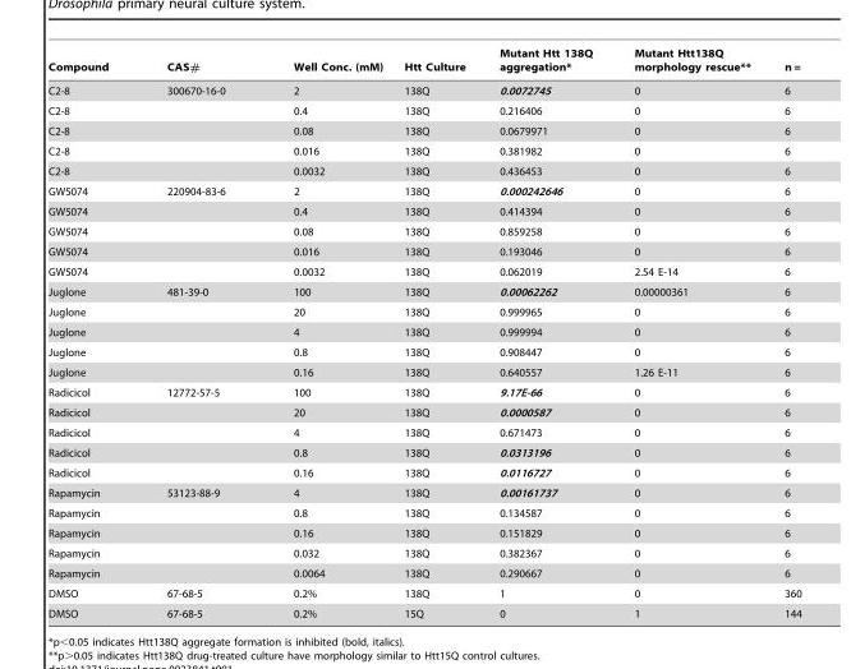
<table><thead><tr><td>Compound</td><td>CAS#</td><td>Well Conc. (mM)</td><td>Htt Culture</td><td>Mutant Htt 138Q aggregation*</td><td>Mutant Htt138Q morphology rescue**</td><td>n =</td></tr></thead><tbody><tr><td>C2-8</td><td>300670-16-0</td><td>2</td><td>138Q</td><td>0.0072745</td><td>0</td><td>6</td></tr><tr><td>C2-8</td><td></td><td>0.4</td><td>138Q</td><td>0.216406</td><td>0</td><td>6</td></tr><tr><td>C2-8</td><td></td><td>0.08</td><td>138Q</td><td>0.0679971</td><td>0</td><td>6</td></tr><tr><td>C2-8</td><td></td><td>0.016</td><td>138Q</td><td>0.381982</td><td>0</td><td>6</td></tr><tr><td>C2-8</td><td></td><td>0.0032</td><td>138Q</td><td>0.436453</td><td>0</td><td>6</td></tr><tr><td>GW5074</td><td>220904-83-6</td><td>2</td><td>138Q</td><td>0.000242646</td><td>0</td><td>6</td></tr><tr><td>GW5074</td><td></td><td>0.4</td><td>138Q</td><td>0.414394</td><td>0</td><td>6</td></tr><tr><td>GW5074</td><td></td><td>0.08</td><td>138Q</td><td>0.859258</td><td>0</td><td>6</td></tr><tr><td>GW5074</td><td></td><td>0.016</td><td>138Q</td><td>0.193046</td><td>0</td><td>6</td></tr><tr><td>GW5074</td><td></td><td>0.0032</td><td>138Q</td><td>0.062019</td><td>2.54 E-14</td><td>6</td></tr><tr><td>Juglone</td><td>481-39-0</td><td>100</td><td>138Q</td><td>0.00062262</td><td>0.00000361</td><td>6</td></tr><tr><td>Juglone</td><td></td><td>20</td><td>138Q</td><td>0.999965</td><td>0</td><td>6</td></tr><tr><td>Juglone</td><td></td><td>4</td><td>138Q</td><td>0.999994</td><td>0</td><td>6</td></tr><tr><td>Juglone</td><td></td><td>0.8</td><td>138Q</td><td>0.908447</td><td>0</td><td>6</td></tr><tr><td>Juglone</td><td></td><td>0.16</td><td>138Q</td><td>0.640557</td><td>1.26 E-11</td><td>6</td></tr><tr><td>Radicicol</td><td>12772-57-5</td><td>100</td><td>138Q</td><td>9.17E-66</td><td>0</td><td>6</td></tr><tr><td>Radicicol</td><td></td><td>20</td><td>138Q</td><td>0.0000587</td><td>0</td><td>6</td></tr><tr><td>Radicicol</td><td></td><td>4</td><td>138Q</td><td>0.671473</td><td>0</td><td>6</td></tr><tr><td>Radicicol</td><td></td><td>0.8</td><td>138Q</td><td>0.0313196</td><td>0</td><td>6</td></tr><tr><td>Radicicol</td><td></td><td>0.16</td><td>138Q</td><td>0.0116727</td><td>0</td><td>6</td></tr><tr><td>Rapamycin</td><td>53123-88-9</td><td>4</td><td>138Q</td><td>0.00161737</td><td>0</td><td>6</td></tr><tr><td>Rapamycin</td><td></td><td>0.8</td><td>138Q</td><td>0.134587</td><td>0</td><td>6</td></tr><tr><td>Rapamycin</td><td></td><td>0.16</td><td>138Q</td><td>0.151829</td><td>0</td><td>6</td></tr><tr><td>Rapamycin</td><td></td><td>0.032</td><td>138Q</td><td>0.382367</td><td>0</td><td>6</td></tr><tr><td>Rapamycin</td><td></td><td>0.0064</td><td>138Q</td><td>0.290667</td><td>0</td><td>6</td></tr><tr><td>DMSO</td><td>67-68-5</td><td>0.2%</td><td>138Q</td><td>1</td><td>0</td><td>360</td></tr><tr><td>DMSO</td><td>67-68-5</td><td>0.2%</td><td>15Q</td><td>0</td><td>1</td><td>144</td></tr></tbody></table>